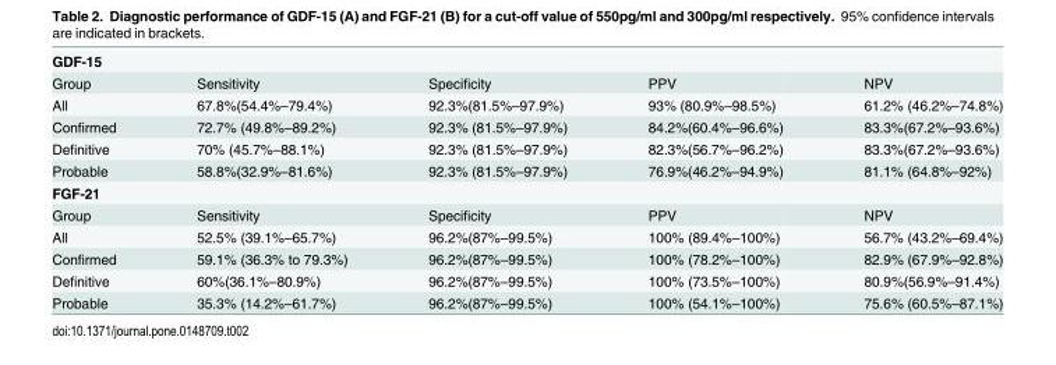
<table><tbody><tr><td colspan="5">GDF-15</td></tr><tr><td>Group</td><td>Sensitivity</td><td>Specificity</td><td>PPV</td><td>NPV</td></tr><tr><td>All</td><td>67.8%(54.4%–79.4%)</td><td>92.3%(81.5%–97.9%)</td><td>93% (80.9%–98.5%)</td><td>61.2% (46.2%–74.8%)</td></tr><tr><td>Confirmed</td><td>72.7% (49.8%–89.2%)</td><td>92.3% (81.5%–97.9%)</td><td>84.2%(60.4%–96.6%)</td><td>83.3%(67.2%–93.6%)</td></tr><tr><td>Definitive</td><td>70% (45.7%–88.1%)</td><td>92.3% (81.5%–97.9%)</td><td>82.3%(56.7%–96.2%)</td><td>83.3%(67.2%–93.6%)</td></tr><tr><td>Probable</td><td>58.8%(32.9%–81.6%)</td><td>92.3% (81.5%–97.9%)</td><td>76.9%(46.2%–94.9%)</td><td>81.1% (64.8%–92%)</td></tr><tr><td colspan="5">FGF-21</td></tr><tr><td>Group</td><td>Sensitivity</td><td>Specificity</td><td>PPV</td><td>NPV</td></tr><tr><td>All</td><td>52.5% (39.1%–65.7%)</td><td>96.2%(87%–99.5%)</td><td>100% (89.4%–100%)</td><td>56.7% (43.2%–69.4%)</td></tr><tr><td>Confirmed</td><td>59.1% (36.3% to 79.3%)</td><td>96.2%(87%–99.5%)</td><td>100% (78.2%–100%)</td><td>82.9% (67.9%–92.8%)</td></tr><tr><td>Definitive</td><td>60%(36.1%–80.9%)</td><td>96.2%(87%–99.5%)</td><td>100% (73.5%–100%)</td><td>80.9%(56.9%–91.4%)</td></tr><tr><td>Probable</td><td>35.3% (14.2%–61.7%)</td><td>96.2%(87%–99.5%)</td><td>100% (54.1%–100%)</td><td>75.6% (60.5%–87.1%)</td></tr></tbody></table>